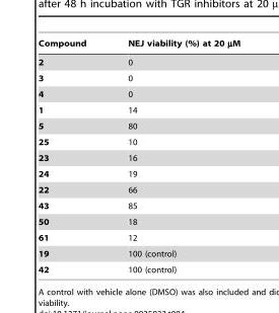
<table><thead><tr><td>Compound</td><td>NEJ viability (%) at 20 µM</td></tr></thead><tbody><tr><td>2</td><td>0</td></tr><tr><td>3</td><td>0</td></tr><tr><td>4</td><td>0</td></tr><tr><td>1</td><td>14</td></tr><tr><td>5</td><td>80</td></tr><tr><td>25</td><td>10</td></tr><tr><td>23</td><td>16</td></tr><tr><td>24</td><td>19</td></tr><tr><td>22</td><td>66</td></tr><tr><td>43</td><td>85</td></tr><tr><td>50</td><td>18</td></tr><tr><td>61</td><td>12</td></tr><tr><td>19</td><td>100 (control)</td></tr><tr><td>42</td><td>100 (control)</td></tr></tbody></table>